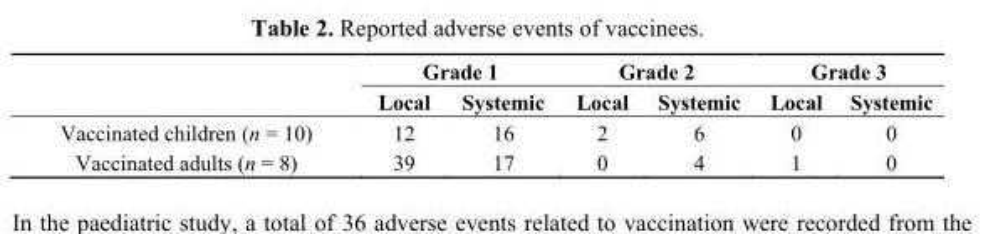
<table><thead><tr><td rowspan="2"></td><td colspan="2">Grade 1</td><td colspan="2">Grade 2</td><td colspan="2">Grade 3</td></tr><tr><td>Local</td><td>Systemic</td><td>Local</td><td>Systemic</td><td>Local</td><td>Systemic</td></tr></thead><tbody><tr><td>Vaccinated children (n = 10)</td><td>12</td><td>16</td><td>2</td><td>6</td><td>0</td><td>0</td></tr><tr><td>Vaccinated adults (n = 8)</td><td>39</td><td>17</td><td>0</td><td>4</td><td>1</td><td>0</td></tr></tbody></table>